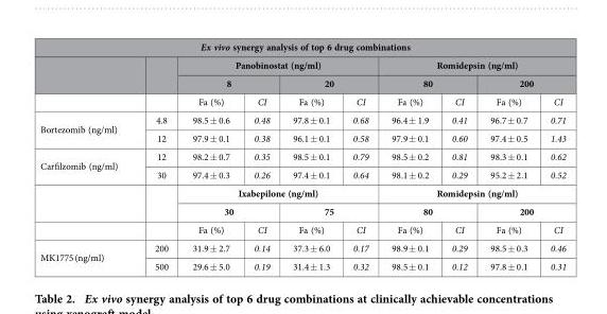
<table><thead><tr><td colspan="10">Ex vivo synergy analysis of top 6 drug combinations</td></tr><tr><td rowspan="3"></td><td rowspan="3"></td><td colspan="4">Panobinostat (ng/ml)</td><td colspan="4">Romidepsin (ng/ml)</td></tr><tr><td colspan="2">8</td><td colspan="2">20</td><td colspan="2">80</td><td colspan="2">200</td></tr><tr><td>Fa (%)</td><td>CI</td><td>Fa (%)</td><td>CI</td><td>Fa (%)</td><td>CI</td><td>Fa (%)</td><td>CI</td></tr></thead><tbody><tr><td rowspan="2">Bortezomib (ng/ml)</td><td>4.8</td><td>98.5 ± 0.6</td><td>0.48</td><td>97.8 ± 0.1</td><td>0.68</td><td>96.4 ± 1.9</td><td>0.41</td><td>96.7 ± 0.7</td><td>0.71</td></tr><tr><td>12</td><td>97.9 ± 0.1</td><td>0.38</td><td>96.1 ± 0.1</td><td>0.58</td><td>97.9 ± 0.1</td><td>0.60</td><td>97.4 ± 0.5</td><td>1.43</td></tr><tr><td rowspan="5">Carfilzomib (ng/ml)</td><td>12</td><td>98.2 ± 0.7</td><td>0.35</td><td>98.5 ± 0.1</td><td>0.79</td><td>98.5 ± 0.2</td><td>0.81</td><td>98.3 ± 0.1</td><td>0.62</td></tr><tr><td>30</td><td>97.4 ± 0.3</td><td>0.26</td><td>97.4 ± 0.1</td><td>0.64</td><td>98.1 ± 0.2</td><td>0.29</td><td>95.2 ± 2.1</td><td>0.52</td></tr><tr><td rowspan="2"></td><td colspan="4">Ixabepilone (ng/ml)</td><td colspan="4">Romidepsin (ng/ml)</td></tr><tr><td colspan="2">30</td><td colspan="2">75</td><td colspan="2">80</td><td colspan="2">200</td></tr><tr><td></td><td>Fa (%)</td><td>CI</td><td>Fa (%)</td><td>CI</td><td>Fa (%)</td><td>CI</td><td>Fa (%)</td><td>CI</td></tr><tr><td rowspan="2">MK1775 (ng/ml)</td><td>200</td><td>31.9 ± 2.7</td><td>0.14</td><td>37.3 ± 6.0</td><td>0.17</td><td>98.9 ± 0.1</td><td>0.29</td><td>98.5 ± 0.3</td><td>0.46</td></tr><tr><td>500</td><td>29.6 ± 5.0</td><td>0.19</td><td>31.4 ± 1.3</td><td>0.32</td><td>98.5 ± 0.1</td><td>0.12</td><td>97.8 ± 0.1</td><td>0.31</td></tr></tbody></table>